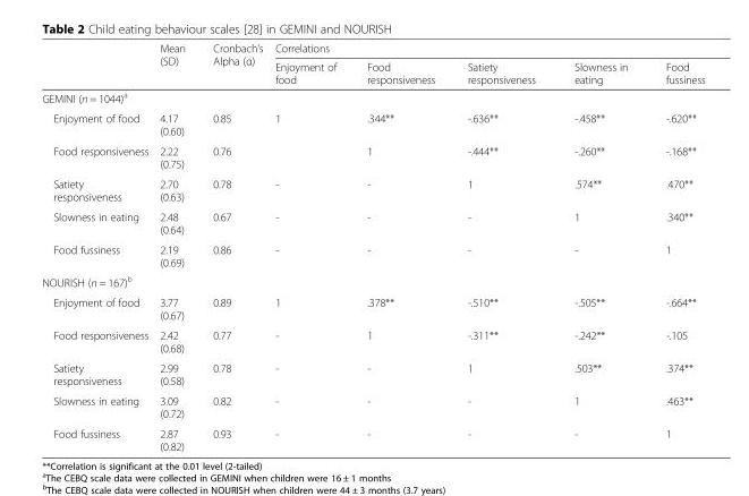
<table><thead><tr><td rowspan="2"></td><td rowspan="2">Mean (SD)</td><td rowspan="2">Cronbach’s Alpha (α)</td><td colspan="5">Correlations</td></tr><tr><td>Enjoyment of food</td><td>Food responsiveness</td><td>Satiety responsiveness</td><td>Slowness in eating</td><td>Food fussiness</td></tr></thead><tbody><tr><td colspan="8">GEMINI (n = 1044)<sup>a</sup></td></tr><tr><td>Enjoyment of food</td><td>4.17 (0.60)</td><td>0.85</td><td>1</td><td>.344**</td><td>-.636**</td><td>-.458**</td><td>-.620**</td></tr><tr><td>Food responsiveness</td><td>2.22 (0.75)</td><td>0.76</td><td></td><td>1</td><td>-.444**</td><td>-.260**</td><td>-.168**</td></tr><tr><td>Satiety responsiveness</td><td>2.70 (0.63)</td><td>0.78</td><td>-</td><td>-</td><td>1</td><td>.574**</td><td>.470**</td></tr><tr><td>Slowness in eating</td><td>2.48 (0.64)</td><td>0.67</td><td>-</td><td>-</td><td>-</td><td>1</td><td>.340**</td></tr><tr><td>Food fussiness</td><td>2.19 (0.69)</td><td>0.86</td><td>-</td><td>-</td><td>-</td><td>-</td><td>1</td></tr><tr><td colspan="8">NOURISH (n = 167)<sup>b</sup></td></tr><tr><td>Enjoyment of food</td><td>3.77 (0.67)</td><td>0.89</td><td>1</td><td>.378**</td><td>-.510**</td><td>-.505**</td><td>-.664**</td></tr><tr><td>Food responsiveness</td><td>2.42 (0.68)</td><td>0.77</td><td>-</td><td>1</td><td>-.311**</td><td>-.242**</td><td>-.105</td></tr><tr><td>Satiety responsiveness</td><td>2.99 (0.58)</td><td>0.78</td><td>-</td><td>-</td><td>1</td><td>.503**</td><td>.374**</td></tr><tr><td>Slowness in eating</td><td>3.09 (0.72)</td><td>0.82</td><td>-</td><td>-</td><td>-</td><td>1</td><td>.463**</td></tr><tr><td>Food fussiness</td><td>2.87 (0.82)</td><td>0.93</td><td>-</td><td>-</td><td>-</td><td>-</td><td>1</td></tr></tbody></table>